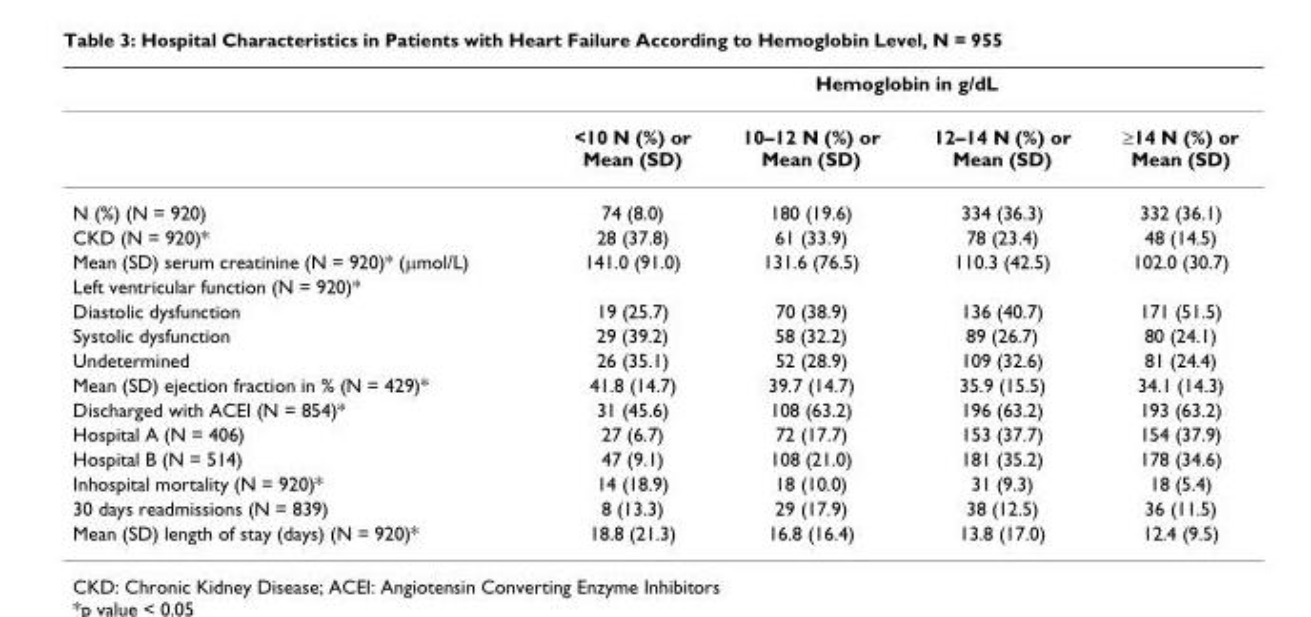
<table><thead><tr><td rowspan="2"></td><td colspan="4">Hemoglobin in g/dL</td></tr><tr><td>&lt;10 N (%) or Mean (SD)</td><td>10–12 N (%) or Mean (SD)</td><td>12–14 N (%) or Mean (SD)</td><td>≥14 N (%) or Mean (SD)</td></tr></thead><tbody><tr><td>N (%) (N = 920)</td><td>74 (8.0)</td><td>180 (19.6)</td><td>334 (36.3)</td><td>332 (36.1)</td></tr><tr><td>CKD (N = 920)*</td><td>28 (37.8)</td><td>61 (33.9)</td><td>78 (23.4)</td><td>48 (14.5)</td></tr><tr><td>Mean (SD) serum creatinine (N = 920)* (µmol/L)</td><td>141.0 (91.0)</td><td>131.6 (76.5)</td><td>110.3 (42.5)</td><td>102.0 (30.7)</td></tr><tr><td colspan="5">Left ventricular function (N = 920)*</td></tr><tr><td>Diastolic dysfunction</td><td>19 (25.7)</td><td>70 (38.9)</td><td>136 (40.7)</td><td>171 (51.5)</td></tr><tr><td>Systolic dysfunction</td><td>29 (39.2)</td><td>58 (32.2)</td><td>89 (26.7)</td><td>80 (24.1)</td></tr><tr><td>Undetermined</td><td>26 (35.1)</td><td>52 (28.9)</td><td>109 (32.6)</td><td>81 (24.4)</td></tr><tr><td>Mean (SD) ejection fraction in % (N = 429)*</td><td>41.8 (14.7)</td><td>39.7 (14.7)</td><td>35.9 (15.5)</td><td>34.1 (14.3)</td></tr><tr><td>Discharged with ACEI (N = 854)*</td><td>31 (45.6)</td><td>108 (63.2)</td><td>196 (63.2)</td><td>193 (63.2)</td></tr><tr><td>Hospital A (N = 406)</td><td>27 (6.7)</td><td>72 (17.7)</td><td>153 (37.7)</td><td>154 (37.9)</td></tr><tr><td>Hospital B (N = 514)</td><td>47 (9.1)</td><td>108 (21.0)</td><td>181 (35.2)</td><td>178 (34.6)</td></tr><tr><td>Inhospital mortality (N = 920)*</td><td>14 (18.9)</td><td>18 (10.0)</td><td>31 (9.3)</td><td>18 (5.4)</td></tr><tr><td>30 days readmissions (N = 839)</td><td>8 (13.3)</td><td>29 (17.9)</td><td>38 (12.5)</td><td>36 (11.5)</td></tr><tr><td>Mean (SD) length of stay (days) (N = 920)*</td><td>18.8 (21.3)</td><td>16.8 (16.4)</td><td>13.8 (17.0)</td><td>12.4 (9.5)</td></tr></tbody></table>